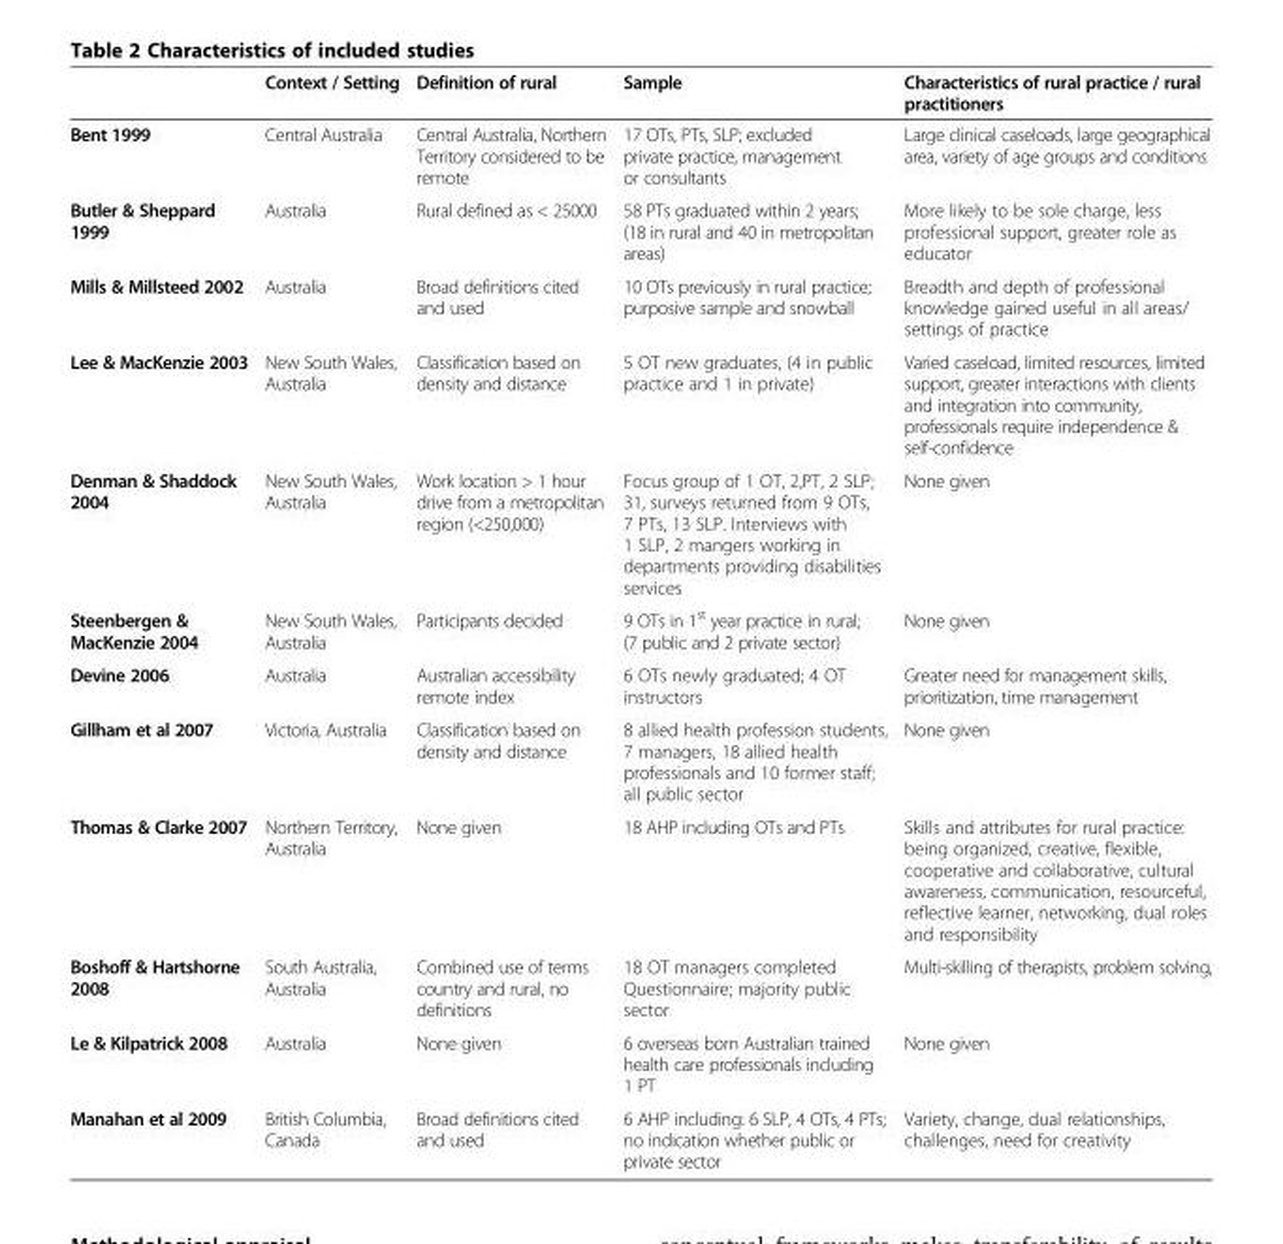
<table><thead><tr><td></td><td>Context / Setting</td><td>Definition of rural</td><td>Sample</td><td>Characteristics of rural practice / rural practitioners</td></tr></thead><tbody><tr><td>Bent 1999</td><td>Central Australia</td><td>Central Australia, Northern Territory considered to be remote</td><td>17 OTs, PTs, SLP; excluded private practice, management or consultants</td><td>Large clinical caseloads, large geographical area, variety of age groups and conditions</td></tr><tr><td>Butler &amp; Sheppard 1999</td><td>Australia</td><td>Rural defined as &lt; 25000</td><td>58 PTs graduated within 2 years; (18 in rural and 40 in metropolitan areas)</td><td>More likely to be sole charge, less professional support, greater role as educator</td></tr><tr><td>Mills &amp; Millsteed 2002</td><td>Australia</td><td>Broad definitions cited and used</td><td>10 OTs previously in rural practice; purposive sample and snowball</td><td>Breadth and depth of professional knowledge gained useful in all areas/ settings of practice</td></tr><tr><td>Lee &amp; MacKenzie 2003</td><td>New South Wales, Australia</td><td>Classification based on density and distance</td><td>5 OT new graduates, (4 in public practice and 1 in private)</td><td>Varied caseload, limited resources, limited support, greater interactions with clients and integration into community, professionals require independence &amp; self-confidence</td></tr><tr><td>Denman &amp; Shaddock 2004</td><td>New South Wales, Australia</td><td>Work location &gt; 1 hour drive from a metropolitan region (&lt;250,000)</td><td>Focus group of 1 OT, 2,PT, 2 SLP; 31, surveys returned from 9 OTs, 7 PTs, 13 SLP. Interviews with 1 SLP, 2 mangers working in departments providing disabilities services</td><td>None given</td></tr><tr><td>Steenbergen &amp; MacKenzie 2004</td><td>New South Wales, Australia</td><td>Participants decided</td><td>9 OTs in 1<sup>st</sup> year practice in rural; (7 public and 2 private sector)</td><td>None given</td></tr><tr><td>Devine 2006</td><td>Australia</td><td>Australian accessibility remote index</td><td>6 OTs newly graduated; 4 OT instructors</td><td>Greater need for management skills, prioritization, time management</td></tr><tr><td>Gillham et al 2007</td><td>Victoria, Australia</td><td>Classification based on density and distance</td><td>8 allied health profession students, 7 managers, 18 allied health professionals and 10 former staff; all public sector</td><td>None given</td></tr><tr><td>Thomas &amp; Clarke 2007</td><td>Northern Territory, Australia</td><td>None given</td><td>18 AHP including OTs and PTs</td><td>Skills and attributes for rural practice: being organized, creative, flexible, cooperative and collaborative, cultural awareness, communication, resourceful, reflective learner, networking, dual roles and responsibility</td></tr><tr><td>Boshoff &amp; Hartshorne 2008</td><td>South Australia, Australia</td><td>Combined use of terms country and rural, no definitions</td><td>18 OT managers completed Questionnaire; majority public sector</td><td>Multi-skilling of therapists, problem solving,</td></tr><tr><td>Le &amp; Kilpatrick 2008</td><td>Australia</td><td>None given</td><td>6 overseas born Australian trained health care professionals including 1 PT</td><td>None given</td></tr><tr><td>Manahan et al 2009</td><td>British Columbia, Canada</td><td>Broad definitions cited and used</td><td>6 AHP including: 6 SLP, 4 OTs, 4 PTs; no indication whether public or private sector</td><td>Variety, change, dual relationships, challenges, need for creativity</td></tr></tbody></table>